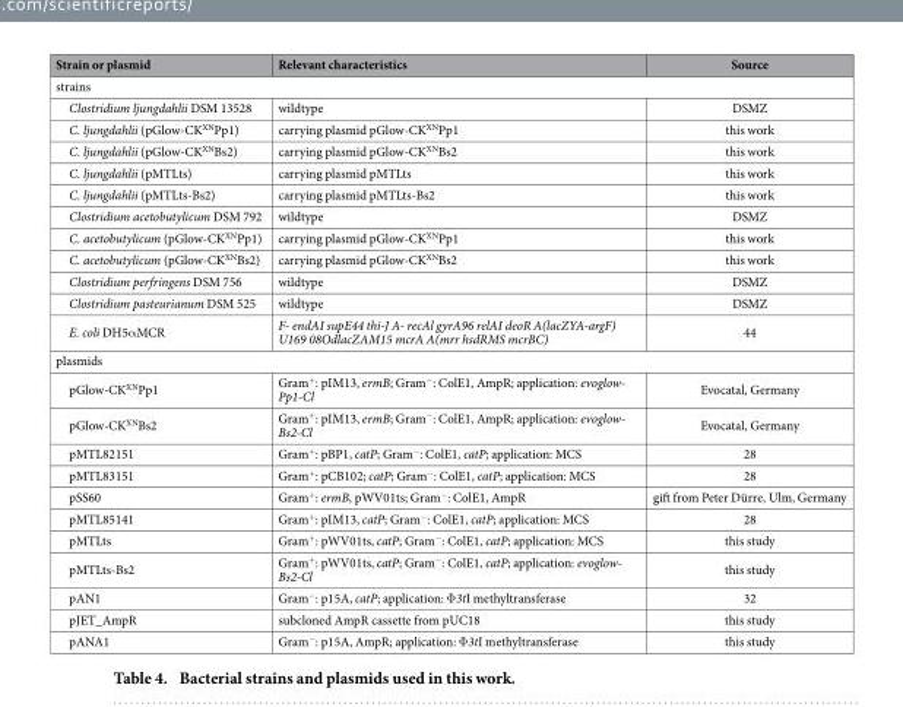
<table><thead><tr><td>Strain or plasmid</td><td>Relevant characteristics</td><td>Source</td></tr></thead><tbody><tr><td colspan="3">strains</td></tr><tr><td>Clostridium ljungdahlii DSM 13528</td><td>wildtype</td><td>DSMZ</td></tr><tr><td>C. ljungdahlii (pGlow-CK<sup>XN</sup>Pp1)</td><td>carrying plasmid pGlow-CK<sup>XN</sup>Pp1</td><td>this work</td></tr><tr><td>C. ljungdahlii (pGlow-CK<sup>XN</sup>Bs2)</td><td>carrying plasmid pGlow-CK<sup>XN</sup>Bs2</td><td>this work</td></tr><tr><td>C. ljungdahlii (pMTLts)</td><td>carrying plasmid pMTLts</td><td>this work</td></tr><tr><td>C. ljungdahlii (pMTLts-Bs2)</td><td>carrying plasmid pMTLts-Bs2</td><td>this work</td></tr><tr><td>Clostridium acetobutylicum DSM 792</td><td>wildtype</td><td>DSMZ</td></tr><tr><td>C. acetobutylicum (pGlow-CK<sup>XN</sup>Pp1)</td><td>carrying plasmid pGlow-CK<sup>XN</sup>Pp1</td><td>this work</td></tr><tr><td>C. acetobutylicum (pGlow-CK<sup>XN</sup>Bs2)</td><td>carrying plasmid pGlow-CK<sup>XN</sup>Bs2</td><td>this work</td></tr><tr><td>Clostridium perfringens DSM 756</td><td>wildtype</td><td>DSMZ</td></tr><tr><td>Clostridium pasteurianum DSM 525</td><td>wildtype</td><td>DSMZ</td></tr><tr><td>E. coli DH5α MCR</td><td>F- endAI supE44 thi-J A- recAl gyrA96 relAI deoR A(lacZYA-argF) U169 08OdlacZAM15 mcrA A(mrr hsdRMS mcrBC)</td><td>44</td></tr><tr><td colspan="3">plasmids</td></tr><tr><td>pGlow-CK<sup>XN</sup>Pp1</td><td>Gram<sup>+</sup>: pIM13, ermB; Gram<sup>−</sup>: ColE1, AmpR; application: evoglow- Pp1-Cl</td><td>Evocatal, Germany</td></tr><tr><td>pGlow-CK<sup>XN</sup>Bs2</td><td>Gram<sup>+</sup>: pIM13, ermB; Gram<sup>−</sup>: ColE1, AmpR; application: evoglow- Bs2-Cl</td><td>Evocatal, Germany</td></tr><tr><td>pMTL82151</td><td>Gram<sup>+</sup>: pBP1, catP; Gram<sup>−</sup>: ColE1, catP; application: MCS</td><td>28</td></tr><tr><td>pMTL83151</td><td>Gram<sup>+</sup>: pCB102; catP; Gram<sup>−</sup>: ColE1, catP; application: MCS</td><td>28</td></tr><tr><td>pSS60</td><td>Gram<sup>+</sup>: ermB, pWV01ts; Gram<sup>−</sup>: ColE1, AmpR</td><td>gift from Peter Dürre, Ulm, Germany</td></tr><tr><td>pMTL85141</td><td>Gram<sup>+</sup>: pIM13, catP; Gram<sup>−</sup>: ColE1, catP; application: MCS</td><td>28</td></tr><tr><td>pMTLts</td><td>Gram<sup>+</sup>: pWV01ts, catP; Gram<sup>−</sup>: ColE1, catP; application: MCS</td><td>this study</td></tr><tr><td>pMTLts-Bs2</td><td>Gram<sup>+</sup>: pWV01ts, catP; Gram<sup>−</sup>: ColE1, catP; application: evoglow- Bs2-Cl</td><td>this study</td></tr><tr><td>pAN1</td><td>Gram<sup>−</sup>: p15A, catP; application: Φ 3tI methyltransferase</td><td>32</td></tr><tr><td>pJET_AmpR</td><td>subcloned AmpR cassette from pUC18</td><td>this study</td></tr><tr><td>pANA1</td><td>Gram<sup>−</sup>: p15A, AmpR; application: Φ 3tI methyltransferase</td><td>this study</td></tr></tbody></table>